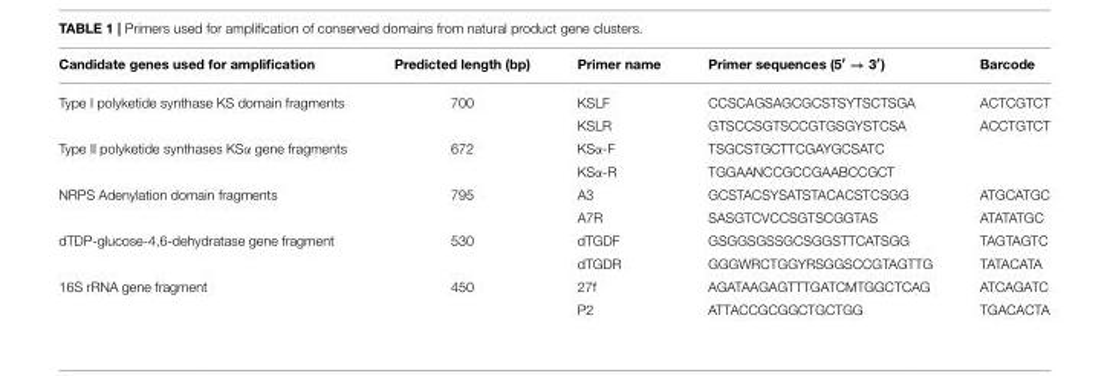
<table><thead><tr><td>Candidate genes used for amplification</td><td>Predicted length (bp)</td><td>Primer name</td><td>Primer sequences (5′ → 3′)</td><td>Barcode</td></tr></thead><tbody><tr><td rowspan="2">Type I polyketide synthase KS domain fragments</td><td>700</td><td>KSLF</td><td>CCSCAGSAGCGCSTSYTSCTSGA</td><td>ACTCGTCT</td></tr><tr><td></td><td>KSLR</td><td>GTSCCSGTSCCGTGSGYSTCSA</td><td>ACCTGTCT</td></tr><tr><td rowspan="2">Type II polyketide synthases KSα gene fragments</td><td>672</td><td>KSα-F</td><td>TSGCSTGCTTCGAYGCSATC</td><td></td></tr><tr><td></td><td>KSα-R</td><td>TGGAANCCGCCGAABCCGCT</td><td></td></tr><tr><td rowspan="2">NRPS Adenylation domain fragments</td><td>795</td><td>A3</td><td>GCSTACSYSATSTACACSTCSGG</td><td>ATGCATGC</td></tr><tr><td></td><td>A7R</td><td>SASGTCVCCSGTSCGGTAS</td><td>ATATATGC</td></tr><tr><td rowspan="2">dTDP-glucose-4,6-dehydratase gene fragment</td><td>530</td><td>dTGDF</td><td>GSGGSGSSGCSGGSTTCATSGG</td><td>TAGTAGTC</td></tr><tr><td></td><td>dTGDR</td><td>GGGWRCTGGYRSGGSCCGTAGTTG</td><td>TATACATA</td></tr><tr><td rowspan="2">16S rRNA gene fragment</td><td>450</td><td>27f</td><td>AGATAAGAGTTTGATCMTGGCTCAG</td><td>ATCAGATC</td></tr><tr><td></td><td>P2</td><td>ATTACCGCGGCTGCTGG</td><td>TGACACTA</td></tr></tbody></table>